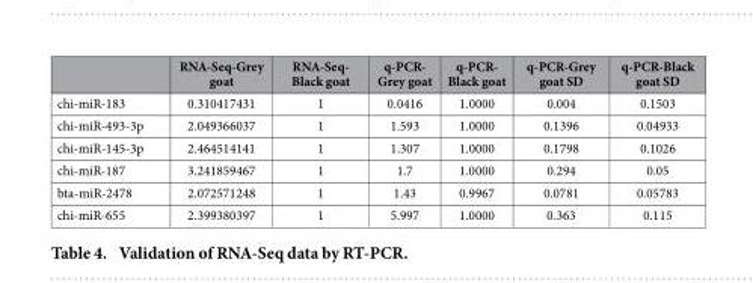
<table><thead><tr><td></td><td>RNA-Seq-Grey goat</td><td>RNA-Seq- Black goat</td><td>q-PCR- Grey goat</td><td>q-PCR- Black goat</td><td>q-PCR-Grey goat SD</td><td>q-PCR-Black goat SD</td></tr></thead><tbody><tr><td>chi-miR-183</td><td>0.310417431</td><td>1</td><td>0.0416</td><td>1.0000</td><td>0.004</td><td>0.1503</td></tr><tr><td>chi-miR-493-3p</td><td>2.049366037</td><td>1</td><td>1.593</td><td>1.0000</td><td>0.1396</td><td>0.04933</td></tr><tr><td>chi-miR-145-3p</td><td>2.464514141</td><td>1</td><td>1.307</td><td>1.0000</td><td>0.1798</td><td>0.1026</td></tr><tr><td>chi-miR-187</td><td>3.241859467</td><td>1</td><td>1.7</td><td>1.0000</td><td>0.294</td><td>0.05</td></tr><tr><td>bta-miR-2478</td><td>2.072571248</td><td>1</td><td>1.43</td><td>0.9967</td><td>0.0781</td><td>0.05783</td></tr><tr><td>chi-miR-655</td><td>2.399380397</td><td>1</td><td>5.997</td><td>1.0000</td><td>0.363</td><td>0.115</td></tr></tbody></table>